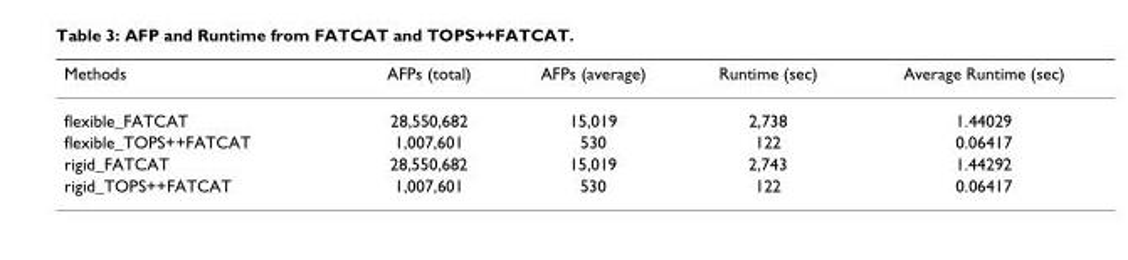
<table><thead><tr><td>Methods</td><td>AFPs (total)</td><td>AFPs (average)</td><td>Runtime (sec)</td><td>Average Runtime (sec)</td></tr></thead><tbody><tr><td>flexible_FATCAT</td><td>28,550,682</td><td>15,019</td><td>2,738</td><td>1.44029</td></tr><tr><td>flexible_TOPS++FATCAT</td><td>1,007,601</td><td>530</td><td>122</td><td>0.06417</td></tr><tr><td>rigid_FATCAT</td><td>28,550,682</td><td>15,019</td><td>2,743</td><td>1.44292</td></tr><tr><td>rigid_TOPS++FATCAT</td><td>1,007,601</td><td>530</td><td>122</td><td>0.06417</td></tr></tbody></table>